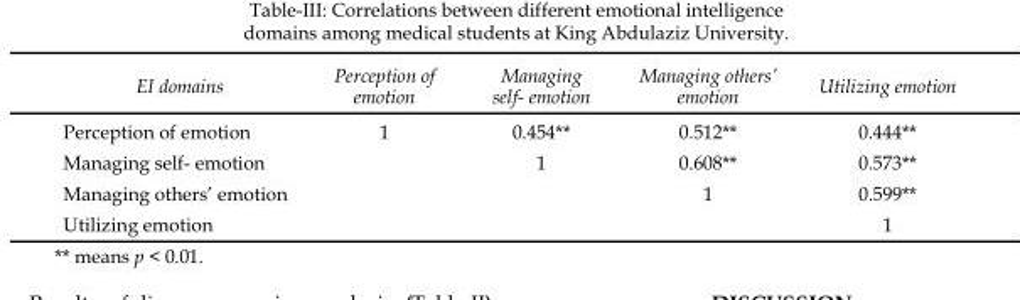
<table><thead><tr><td>EI domains</td><td>Perception of emotion</td><td>Managing self- emotion</td><td>Managing others’ emotion</td><td>Utilizing emotion</td></tr></thead><tbody><tr><td>Perception of emotion</td><td>1</td><td>0.454**</td><td>0.512**</td><td>0.444**</td></tr><tr><td>Managing self- emotion</td><td></td><td>1</td><td>0.608**</td><td>0.573**</td></tr><tr><td>Managing others’ emotion</td><td></td><td></td><td>1</td><td>0.599**</td></tr><tr><td>Utilizing emotion</td><td></td><td></td><td></td><td>1</td></tr></tbody></table>